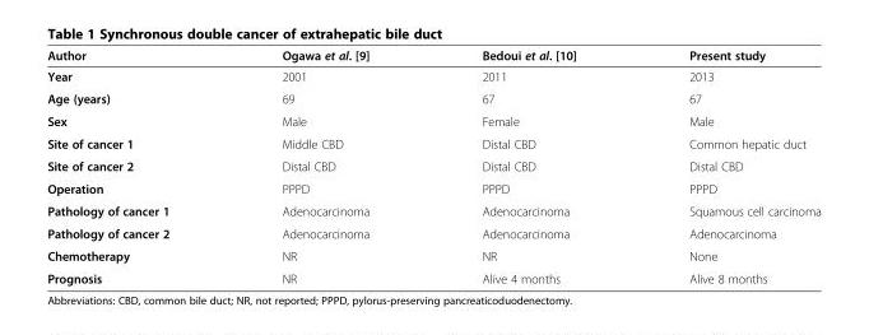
<table><thead><tr><td>Author</td><td>Ogawa et al. [9]</td><td>Bedoui et al. [10]</td><td>Present study</td></tr></thead><tbody><tr><td>Year</td><td>2001</td><td>2011</td><td>2013</td></tr><tr><td>Age (years)</td><td>69</td><td>67</td><td>67</td></tr><tr><td>Sex</td><td>Male</td><td>Female</td><td>Male</td></tr><tr><td>Site of cancer 1</td><td>Middle CBD</td><td>Distal CBD</td><td>Common hepatic duct</td></tr><tr><td>Site of cancer 2</td><td>Distal CBD</td><td>Distal CBD</td><td>Distal CBD</td></tr><tr><td>Operation</td><td>PPPD</td><td>PPPD</td><td>PPPD</td></tr><tr><td>Pathology of cancer 1</td><td>Adenocarcinoma</td><td>Adenocarcinoma</td><td>Squamous cell carcinoma</td></tr><tr><td>Pathology of cancer 2</td><td>Adenocarcinoma</td><td>Adenocarcinoma</td><td>Adenocarcinoma</td></tr><tr><td>Chemotherapy</td><td>NR</td><td>NR</td><td>None</td></tr><tr><td>Prognosis</td><td>NR</td><td>Alive 4 months</td><td>Alive 8 months</td></tr></tbody></table>